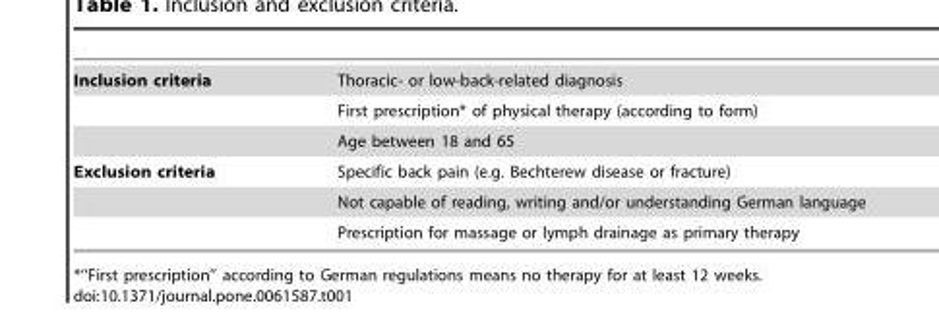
<table><tbody><tr><td rowspan="3">Inclusion criteria</td><td>Thoracic- or low-back-related diagnosis</td></tr><tr><td>First prescription* of physical therapy (according to form)</td></tr><tr><td>Age between 18 and 65</td></tr><tr><td rowspan="3">Exclusion criteria</td><td>Specific back pain (e.g. Bechterew disease or fracture)</td></tr><tr><td>Not capable of reading, writing and/or understanding German language</td></tr><tr><td>Prescription for massage or lymph drainage as primary therapy</td></tr></tbody></table>